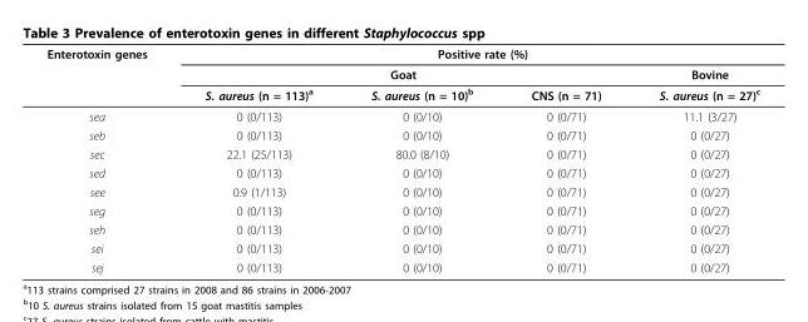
<table><thead><tr><td rowspan="3">Enterotoxin genes</td><td colspan="4">Positive rate (%)</td></tr><tr><td colspan="3">Goat</td><td rowspan="2">Bovine S. aureus (n = 27)<sup>c</sup></td></tr><tr><td>S. aureus (n = 113)<sup>a</sup></td><td>S. aureus (n = 10)<sup>b</sup></td><td>CNS (n = 71)</td></tr></thead><tbody><tr><td>sea</td><td>0 (0/113)</td><td>0 (0/10)</td><td>0 (0/71)</td><td>11.1 (3/27)</td></tr><tr><td>seb</td><td>0 (0/113)</td><td>0 (0/10)</td><td>0 (0/71)</td><td>0 (0/27)</td></tr><tr><td>sec</td><td>22.1 (25/113)</td><td>80.0 (8/10)</td><td>0 (0/71)</td><td>0 (0/27)</td></tr><tr><td>sed</td><td>0 (0/113)</td><td>0 (0/10)</td><td>0 (0/71)</td><td>0 (0/27)</td></tr><tr><td>see</td><td>0.9 (1/113)</td><td>0 (0/10)</td><td>0 (0/71)</td><td>0 (0/27)</td></tr><tr><td>seg</td><td>0 (0/113)</td><td>0 (0/10)</td><td>0 (0/71)</td><td>0 (0/27)</td></tr><tr><td>seh</td><td>0 (0/113)</td><td>0 (0/10)</td><td>0 (0/71)</td><td>0 (0/27)</td></tr><tr><td>sei</td><td>0 (0/113)</td><td>0 (0/10)</td><td>0 (0/71)</td><td>0 (0/27)</td></tr><tr><td>sej</td><td>0 (0/113)</td><td>0 (0/10)</td><td>0 (0/71)</td><td>0 (0/27)</td></tr></tbody></table>